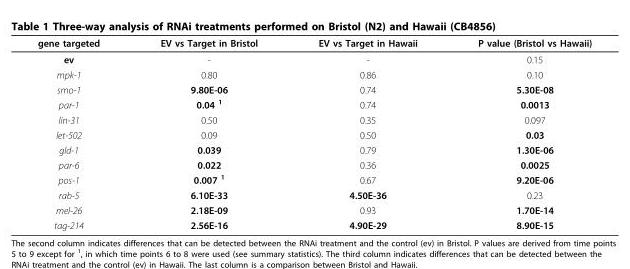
<table><thead><tr><td>gene targeted</td><td>EV vs Target in Bristol</td><td>EV vs Target in Hawaii</td><td>P value (Bristol vs Hawaii)</td></tr></thead><tbody><tr><td>ev</td><td>-</td><td>-</td><td>0.15</td></tr><tr><td>mpk-1</td><td>0.80</td><td>0.86</td><td>0.10</td></tr><tr><td>smo-1</td><td>9.80E-06</td><td>0.74</td><td>5.30E-08</td></tr><tr><td>par-1</td><td>0.04 <sup>1</sup></td><td>0.74</td><td>0.0013</td></tr><tr><td>lin-31</td><td>0.50</td><td>0.35</td><td>0.097</td></tr><tr><td>let-502</td><td>0.09</td><td>0.50</td><td>0.03</td></tr><tr><td>gld-1</td><td>0.039</td><td>0.79</td><td>1.30E-06</td></tr><tr><td>par-6</td><td>0.022</td><td>0.36</td><td>0.0025</td></tr><tr><td>pos-1</td><td>0.007 <sup>1</sup></td><td>0.67</td><td>9.20E-06</td></tr><tr><td>rab-5</td><td>6.10E-33</td><td>4.50E-36</td><td>0.23</td></tr><tr><td>mel-26</td><td>2.18E-09</td><td>0.93</td><td>1.70E-14</td></tr><tr><td>tag-214</td><td>2.56E-16</td><td>4.90E-29</td><td>8.90E-15</td></tr></tbody></table>